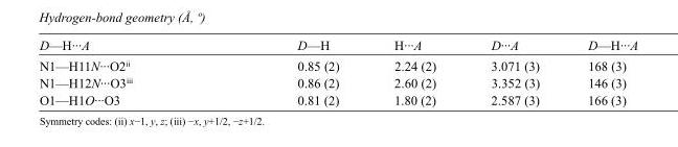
<table><tbody><tr><td>D—H···A</td><td>D—H</td><td>H···A</td><td>D···A</td><td>D—H···A</td></tr><tr><td>N1—H11N···O2<sup>ii</sup></td><td>0.85 (2)</td><td>2.24 (2)</td><td>3.071 (3)</td><td>168 (3)</td></tr><tr><td>N1—H12N···O3<sup>iii</sup></td><td>0.86 (2)</td><td>2.60 (2)</td><td>3.352 (3)</td><td>146 (3)</td></tr><tr><td>O1—H1O···O3</td><td>0.81 (2)</td><td>1.80 (2)</td><td>2.587 (3)</td><td>166 (3)</td></tr></tbody></table>